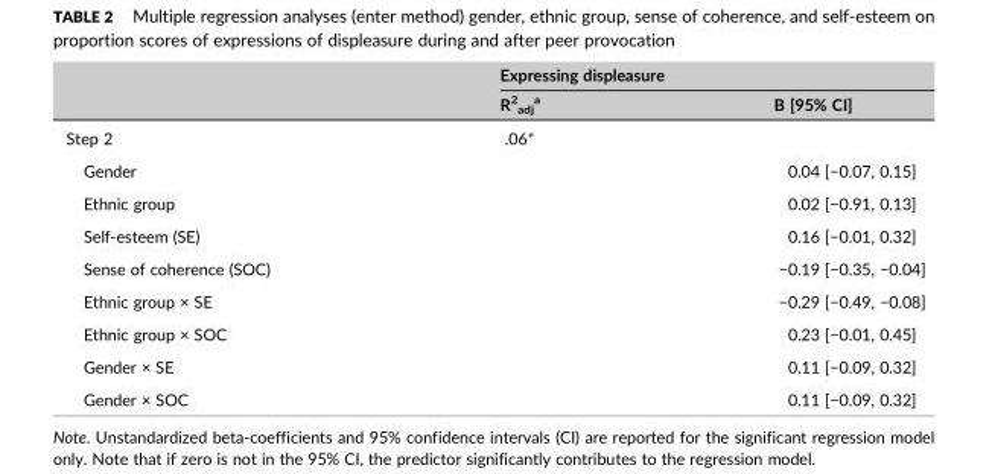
<table><thead><tr><td rowspan="2"></td><td colspan="2">Expressing displeasure</td></tr><tr><td>R<sup>2</sup> <sub>adj</sub> a</td><td>B [95% CI]</td></tr></thead><tbody><tr><td>Step 2</td><td>.06*</td><td></td></tr><tr><td>Gender</td><td></td><td>0.04 [−0.07, 0.15]</td></tr><tr><td>Ethnic group</td><td></td><td>0.02 [−0.91, 0.13]</td></tr><tr><td>Self‐esteem (SE)</td><td></td><td>0.16 [−0.01, 0.32]</td></tr><tr><td>Sense of coherence (SOC)</td><td></td><td>−0.19 [−0.35, −0.04]</td></tr><tr><td>Ethnic group × SE</td><td></td><td>−0.29 [−0.49, −0.08]</td></tr><tr><td>Ethnic group × SOC</td><td></td><td>0.23 [−0.01, 0.45]</td></tr><tr><td>Gender × SE</td><td></td><td>0.11 [−0.09, 0.32]</td></tr><tr><td>Gender × SOC</td><td></td><td>0.11 [−0.09, 0.32]</td></tr></tbody></table>